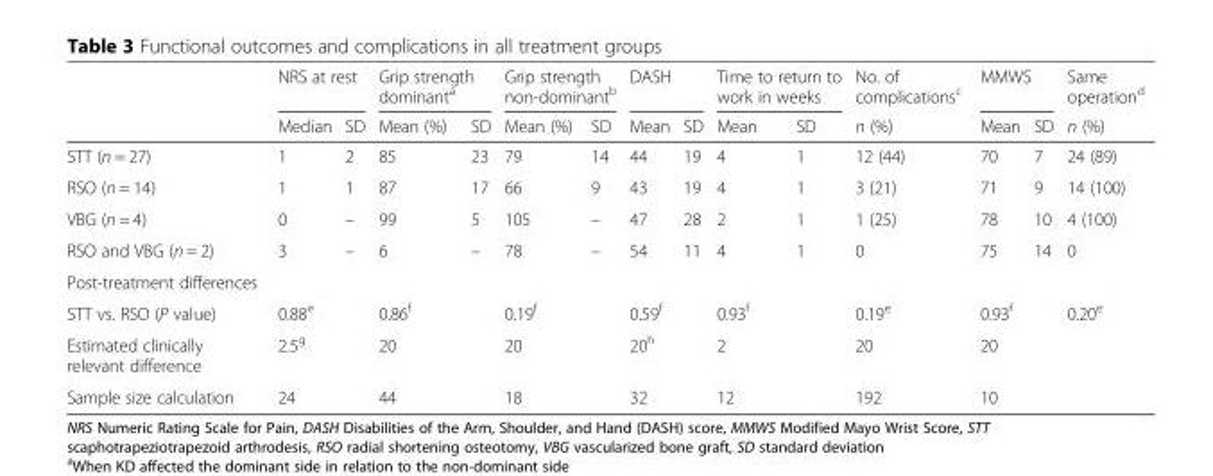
<table><thead><tr><td rowspan="2"></td><td colspan="2">NRS at rest</td><td colspan="2">Grip strength dominant<sup>a</sup></td><td colspan="2">Grip strength non-dominant<sup>b</sup></td><td colspan="2">DASH</td><td colspan="2">Time to return to work in weeks</td><td rowspan="2">No. of complications<sup>c</sup> n (%)</td><td colspan="2">MMWS</td><td rowspan="2">Same operation<sup>d</sup> n (%)</td></tr><tr><td>Median</td><td>SD</td><td>Mean (%)</td><td>SD</td><td>Mean (%)</td><td>SD</td><td>Mean</td><td>SD</td><td>Mean</td><td>SD</td><td>Mean</td><td>SD</td></tr></thead><tbody><tr><td>STT (n = 27)</td><td>1</td><td>2</td><td>85</td><td>23</td><td>79</td><td>14</td><td>44</td><td>19</td><td>4</td><td>1</td><td>12 (44)</td><td>70</td><td>7</td><td>24 (89)</td></tr><tr><td>RSO (n = 14)</td><td>1</td><td>1</td><td>87</td><td>17</td><td>66</td><td>9</td><td>43</td><td>19</td><td>4</td><td>1</td><td>3 (21)</td><td>71</td><td>9</td><td>14 (100)</td></tr><tr><td>VBG (n = 4)</td><td>0</td><td>–</td><td>99</td><td>5</td><td>105</td><td>–</td><td>47</td><td>28</td><td>2</td><td>1</td><td>1 (25)</td><td>78</td><td>10</td><td>4 (100)</td></tr><tr><td>RSO and VBG (n = 2)</td><td>3</td><td>–</td><td>6</td><td>–</td><td>78</td><td>–</td><td>54</td><td>11</td><td>4</td><td>1</td><td>0</td><td>75</td><td>14</td><td>0</td></tr><tr><td colspan="15">Post-treatment differences</td></tr><tr><td>STT vs. RSO (P value)</td><td colspan="2">0.88<sup>e</sup></td><td colspan="2">0.86<sup>f</sup></td><td colspan="2">0.19<sup>f</sup></td><td colspan="2">0.59<sup>f</sup></td><td colspan="2">0.93<sup>f</sup></td><td>0.19<sup>e</sup></td><td colspan="2">0.93<sup>f</sup></td><td>0.20<sup>e</sup></td></tr><tr><td>Estimated clinically relevant difference</td><td colspan="2">2.5<sup>g</sup></td><td colspan="2">20</td><td colspan="2">20</td><td colspan="2">20<sup>h</sup></td><td colspan="2">2</td><td>20</td><td colspan="2">20</td><td></td></tr><tr><td>Sample size calculation</td><td colspan="2">24</td><td colspan="2">44</td><td colspan="2">18</td><td colspan="2">32</td><td colspan="2">12</td><td>192</td><td colspan="2">10</td><td></td></tr></tbody></table>